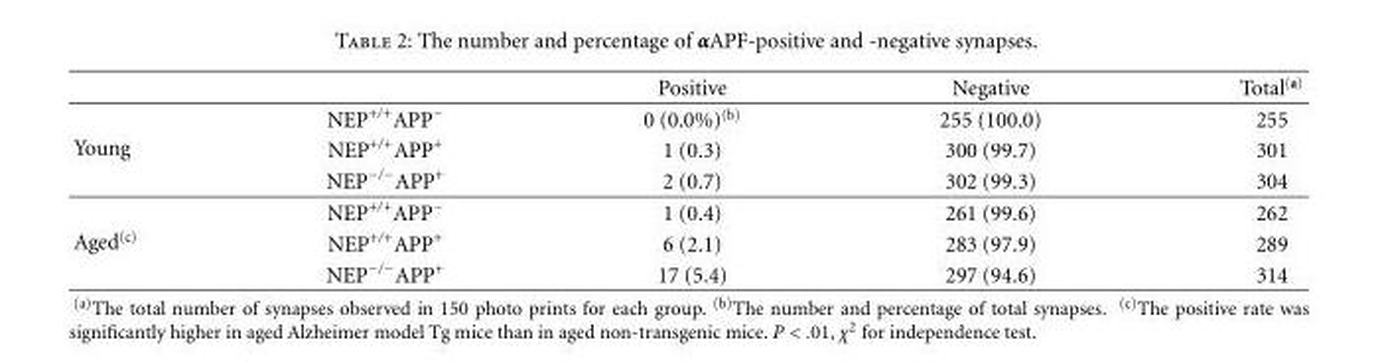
<table><thead><tr><td></td><td></td><td>Positive</td><td>Negative</td><td>Total<sup>(a)</sup></td></tr></thead><tbody><tr><td rowspan="3">Young</td><td>NEP<sup>+/+</sup>APP<sup>−</sup></td><td>0 (0.0%)<sup>(b)</sup></td><td>255 (100.0)</td><td>255</td></tr><tr><td>NEP<sup>+/+</sup>APP<sup>+</sup></td><td>1 (0.3)</td><td>300 (99.7)</td><td>301</td></tr><tr><td>NEP<sup>−/−</sup>APP<sup>+</sup></td><td>2 (0.7)</td><td>302 (99.3)</td><td>304</td></tr><tr><td rowspan="3">Aged<sup>(c)</sup></td><td>NEP<sup>+/+</sup>APP<sup>−</sup></td><td>1 (0.4)</td><td>261 (99.6)</td><td>262</td></tr><tr><td>NEP<sup>+/+</sup>APP<sup>+</sup></td><td>6 (2.1)</td><td>283 (97.9)</td><td>289</td></tr><tr><td>NEP<sup>−/−</sup>APP<sup>+</sup></td><td>17 (5.4)</td><td>297 (94.6)</td><td>314</td></tr></tbody></table>